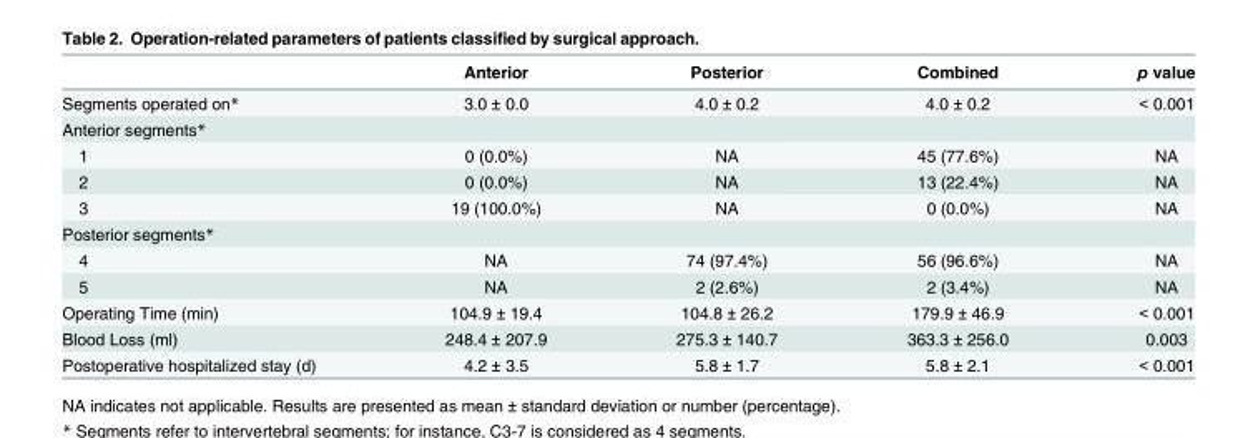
<table><thead><tr><td></td><td>Anterior</td><td>Posterior</td><td>Combined</td><td>p value</td></tr></thead><tbody><tr><td>Segments operated on*</td><td>3.0 ± 0.0</td><td>4.0 ± 0.2</td><td>4.0 ± 0.2</td><td>&lt; 0.001</td></tr><tr><td colspan="5">Anterior segments*</td></tr><tr><td>1</td><td>0 (0.0%)</td><td>NA</td><td>45 (77.6%)</td><td>NA</td></tr><tr><td>2</td><td>0 (0.0%)</td><td>NA</td><td>13 (22.4%)</td><td>NA</td></tr><tr><td>3</td><td>19 (100.0%)</td><td>NA</td><td>0 (0.0%)</td><td>NA</td></tr><tr><td colspan="5">Posterior segments*</td></tr><tr><td>4</td><td>NA</td><td>74 (97.4%)</td><td>56 (96.6%)</td><td>NA</td></tr><tr><td>5</td><td>NA</td><td>2 (2.6%)</td><td>2 (3.4%)</td><td>NA</td></tr><tr><td>Operating Time (min)</td><td>104.9 ± 19.4</td><td>104.8 ± 26.2</td><td>179.9 ± 46.9</td><td>&lt; 0.001</td></tr><tr><td>Blood Loss (ml)</td><td>248.4 ± 207.9</td><td>275.3 ± 140.7</td><td>363.3 ± 256.0</td><td>0.003</td></tr><tr><td>Postoperative hospitalized stay (d)</td><td>4.2 ± 3.5</td><td>5.8 ± 1.7</td><td>5.8 ± 2.1</td><td>&lt; 0.001</td></tr></tbody></table>